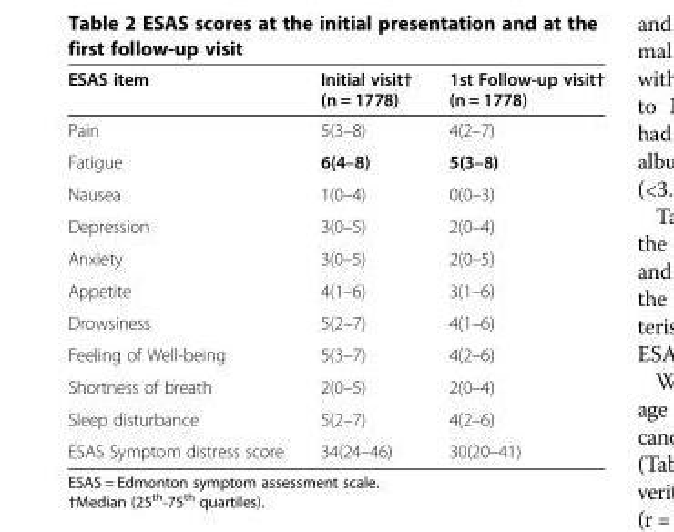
<table><thead><tr><td>ESAS item</td><td>Initial visit† (n = 1778)</td><td>1st Follow-up visit† (n = 1778)</td></tr></thead><tbody><tr><td>Pain</td><td>5(3–8)</td><td>4(2–7)</td></tr><tr><td>Fatigue</td><td>6(4–8)</td><td>5(3–8)</td></tr><tr><td>Nausea</td><td>1(0–4)</td><td>0(0–3)</td></tr><tr><td>Depression</td><td>3(0–5)</td><td>2(0–4)</td></tr><tr><td>Anxiety</td><td>3(0–5)</td><td>2(0–5)</td></tr><tr><td>Appetite</td><td>4(1–6)</td><td>3(1–6)</td></tr><tr><td>Drowsiness</td><td>5(2–7)</td><td>4(1–6)</td></tr><tr><td>Feeling of Well-being</td><td>5(3–7)</td><td>4(2–6)</td></tr><tr><td>Shortness of breath</td><td>2(0–5)</td><td>2(0–4)</td></tr><tr><td>Sleep disturbance</td><td>5(2–7)</td><td>4(2–6)</td></tr><tr><td>ESAS Symptom distress score</td><td>34(24–46)</td><td>30(20–41)</td></tr></tbody></table>